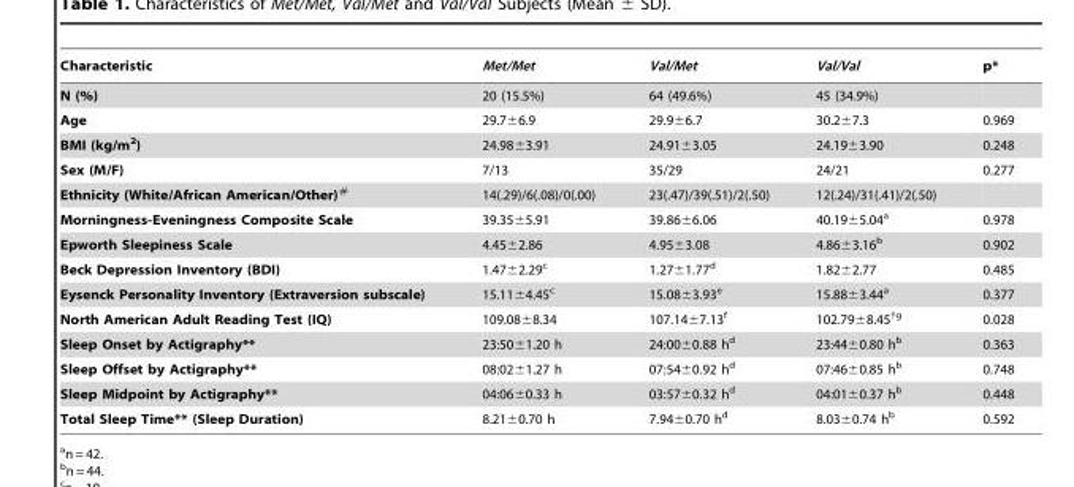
<table><thead><tr><td>Characteristic</td><td>Met/Met</td><td>Val/Met</td><td>Val/Val</td><td>p*</td></tr></thead><tbody><tr><td>N (%)</td><td>20 (15.5%)</td><td>64 (49.6%)</td><td>45 (34.9%)</td><td></td></tr><tr><td>Age</td><td>29.7±6.9</td><td>29.9±6.7</td><td>30.2±7.3</td><td>0.969</td></tr><tr><td>BMI (kg/m<sup>2</sup>)</td><td>24.98±3.91</td><td>24.91±3.05</td><td>24.19±3.90</td><td>0.248</td></tr><tr><td>Sex (M/F)</td><td>7/13</td><td>35/29</td><td>24/21</td><td>0.277</td></tr><tr><td>Ethnicity (White/African American/Other)#</td><td>14(.29)/6(.08)/0(.00)</td><td>23(.47)/39(.51)/2(.50)</td><td>12(.24)/31(.41)/2(.50)</td><td></td></tr><tr><td>Morningness-Eveningness Composite Scale</td><td>39.35±5.91</td><td>39.86±6.06</td><td>40.19±5.04<sup>a</sup></td><td>0.978</td></tr><tr><td>Epworth Sleepiness Scale</td><td>4.45±2.86</td><td>4.95±3.08</td><td>4.86±3.16<sup>b</sup></td><td>0.902</td></tr><tr><td>Beck Depression Inventory (BDI)</td><td>1.47±2.29<sup>c</sup></td><td>1.27±1.77<sup>d</sup></td><td>1.82±2.77</td><td>0.485</td></tr><tr><td>Eysenck Personality Inventory (Extraversion subscale)</td><td>15.11±4.45<sup>c</sup></td><td>15.08±3.93<sup>e</sup></td><td>15.88±3.44<sup>a</sup></td><td>0.377</td></tr><tr><td>North American Adult Reading Test (IQ)</td><td>109.08±8.34</td><td>107.14±7.13<sup>f</sup></td><td>102.79±8.45†<sup>g</sup></td><td>0.028</td></tr><tr><td>Sleep Onset by Actigraphy**</td><td>23:50±1.20 h</td><td>24:00±0.88 hd</td><td>23:44±0.80 hb</td><td>0.363</td></tr><tr><td>Sleep Offset by Actigraphy**</td><td>08:02±1.27 h</td><td>07:54±0.92 hd</td><td>07:46±0.85 hb</td><td>0.748</td></tr><tr><td>Sleep Midpoint by Actigraphy**</td><td>04:06±0.33 h</td><td>03:57±0.32 hd</td><td>04:01±0.37 hb</td><td>0.448</td></tr><tr><td>Total Sleep Time** (Sleep Duration)</td><td>8.21±0.70 h</td><td>7.94±0.70 h<sup>d</sup></td><td>8.03±0.74 h<sup>b</sup></td><td>0.592</td></tr></tbody></table>